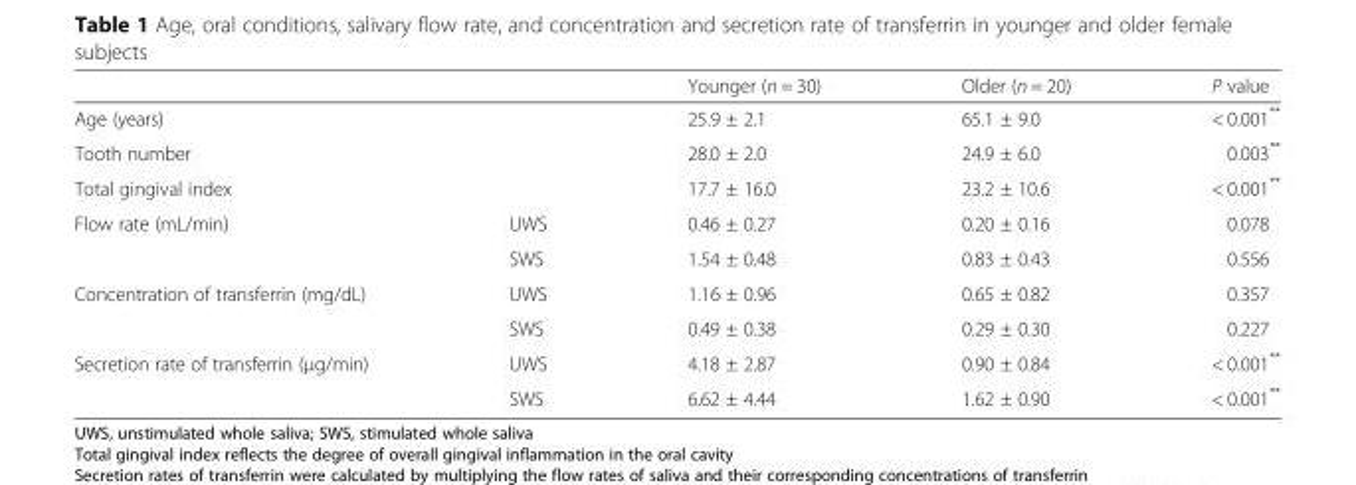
<table><thead><tr><td></td><td></td><td>Younger (n = 30)</td><td>Older (n = 20)</td><td>P value</td></tr></thead><tbody><tr><td colspan="2">Age (years)</td><td>25.9 ± 2.1</td><td>65.1 ± 9.0</td><td>&lt; 0.001**</td></tr><tr><td colspan="2">Tooth number</td><td>28.0 ± 2.0</td><td>24.9 ± 6.0</td><td>0.003**</td></tr><tr><td colspan="2">Total gingival index</td><td>17.7 ± 16.0</td><td>23.2 ± 10.6</td><td>&lt; 0.001**</td></tr><tr><td rowspan="2">Flow rate (mL/min)</td><td>UWS</td><td>0.46 ± 0.27</td><td>0.20 ± 0.16</td><td>0.078</td></tr><tr><td>SWS</td><td>1.54 ± 0.48</td><td>0.83 ± 0.43</td><td>0.556</td></tr><tr><td rowspan="2">Concentration of transferrin (mg/dL)</td><td>UWS</td><td>1.16 ± 0.96</td><td>0.65 ± 0.82</td><td>0.357</td></tr><tr><td>SWS</td><td>0.49 ± 0.38</td><td>0.29 ± 0.30</td><td>0.227</td></tr><tr><td rowspan="2">Secretion rate of transferrin (μg/min)</td><td>UWS</td><td>4.18 ± 2.87</td><td>0.90 ± 0.84</td><td>&lt; 0.001**</td></tr><tr><td>SWS</td><td>6.62 ± 4.44</td><td>1.62 ± 0.90</td><td>&lt; 0.001**</td></tr></tbody></table>